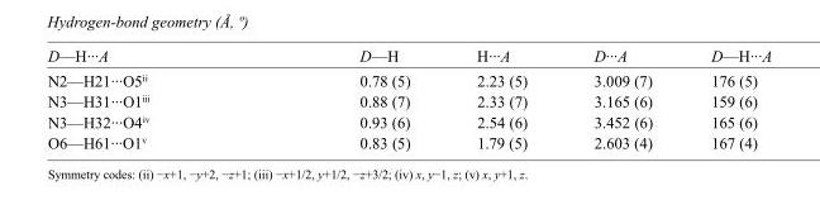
<table><tbody><tr><td>D—H···A</td><td>D—H</td><td>H···A</td><td>D···A</td><td>D—H···A</td></tr><tr><td>N2—H21···O5<sup>ii</sup></td><td>0.78 (5)</td><td>2.23 (5)</td><td>3.009 (7)</td><td>176 (5)</td></tr><tr><td>N3—H31···O1<sup>iii</sup></td><td>0.88 (7)</td><td>2.33 (7)</td><td>3.165 (6)</td><td>159 (6)</td></tr><tr><td>N3—H32···O4<sup>iv</sup></td><td>0.93 (6)</td><td>2.54 (6)</td><td>3.452 (6)</td><td>165 (6)</td></tr><tr><td>O6—H61···O1<sup>v</sup></td><td>0.83 (5)</td><td>1.79 (5)</td><td>2.603 (4)</td><td>167 (4)</td></tr></tbody></table>